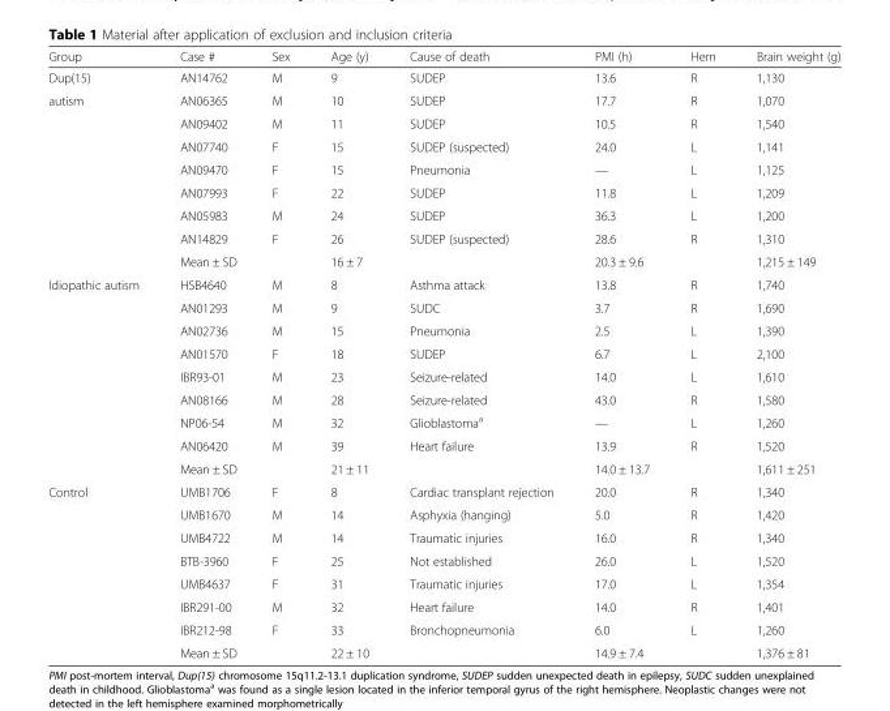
<table><thead><tr><td>Group</td><td>Case #</td><td>Sex</td><td>Age (y)</td><td>Cause of death</td><td>PMI (h)</td><td>Hem</td><td>Brain weight (g)</td></tr></thead><tbody><tr><td>Dup(15)</td><td>AN14762</td><td>M</td><td>9</td><td>SUDEP</td><td>13.6</td><td>R</td><td>1,130</td></tr><tr><td rowspan="8">autism</td><td>AN06365</td><td>M</td><td>10</td><td>SUDEP</td><td>17.7</td><td>R</td><td>1,070</td></tr><tr><td>AN09402</td><td>M</td><td>11</td><td>SUDEP</td><td>10.5</td><td>R</td><td>1,540</td></tr><tr><td>AN07740</td><td>F</td><td>15</td><td>SUDEP (suspected)</td><td>24.0</td><td>L</td><td>1,141</td></tr><tr><td>AN09470</td><td>F</td><td>15</td><td>Pneumonia</td><td>—</td><td>L</td><td>1,125</td></tr><tr><td>AN07993</td><td>F</td><td>22</td><td>SUDEP</td><td>11.8</td><td>L</td><td>1,209</td></tr><tr><td>AN05983</td><td>M</td><td>24</td><td>SUDEP</td><td>36.3</td><td>L</td><td>1,200</td></tr><tr><td>AN14829</td><td>F</td><td>26</td><td>SUDEP (suspected)</td><td>28.6</td><td>R</td><td>1,310</td></tr><tr><td colspan="2">Mean ± SD</td><td>16 ± 7</td><td></td><td>20.3 ± 9.6</td><td></td><td>1,215 ± 149</td></tr><tr><td rowspan="9">Idiopathic autism</td><td>HSB4640</td><td>M</td><td>8</td><td>Asthma attack</td><td>13.8</td><td>R</td><td>1,740</td></tr><tr><td>AN01293</td><td>M</td><td>9</td><td>SUDC</td><td>3.7</td><td>R</td><td>1,690</td></tr><tr><td>AN02736</td><td>M</td><td>15</td><td>Pneumonia</td><td>2.5</td><td>L</td><td>1,390</td></tr><tr><td>AN01570</td><td>F</td><td>18</td><td>SUDEP</td><td>6.7</td><td>L</td><td>2,100</td></tr><tr><td>IBR93-01</td><td>M</td><td>23</td><td>Seizure-related</td><td>14.0</td><td>L</td><td>1,610</td></tr><tr><td>AN08166</td><td>M</td><td>28</td><td>Seizure-related</td><td>43.0</td><td>R</td><td>1,580</td></tr><tr><td>NP06-54</td><td>M</td><td>32</td><td>Glioblastoma<sup>a</sup></td><td>—</td><td>L</td><td>1,260</td></tr><tr><td>AN06420</td><td>M</td><td>39</td><td>Heart failure</td><td>13.9</td><td>R</td><td>1,520</td></tr><tr><td colspan="2">Mean ± SD</td><td>21 ± 11</td><td></td><td>14.0 ± 13.7</td><td></td><td>1,611 ± 251</td></tr><tr><td rowspan="8">Control</td><td>UMB1706</td><td>F</td><td>8</td><td>Cardiac transplant rejection</td><td>20.0</td><td>R</td><td>1,340</td></tr><tr><td>UMB1670</td><td>M</td><td>14</td><td>Asphyxia (hanging)</td><td>5.0</td><td>R</td><td>1,420</td></tr><tr><td>UMB4722</td><td>M</td><td>14</td><td>Traumatic injuries</td><td>16.0</td><td>R</td><td>1,340</td></tr><tr><td>BTB-3960</td><td>F</td><td>25</td><td>Not established</td><td>26.0</td><td>L</td><td>1,520</td></tr><tr><td>UMB4637</td><td>F</td><td>31</td><td>Traumatic injuries</td><td>17.0</td><td>L</td><td>1,354</td></tr><tr><td>IBR291-00</td><td>M</td><td>32</td><td>Heart failure</td><td>14.0</td><td>R</td><td>1,401</td></tr><tr><td>IBR212-98</td><td>F</td><td>33</td><td>Bronchopneumonia</td><td>6.0</td><td>L</td><td>1,260</td></tr><tr><td colspan="2">Mean ± SD</td><td>22 ± 10</td><td></td><td>14.9 ± 7.4</td><td></td><td>1,376 ± 81</td></tr></tbody></table>